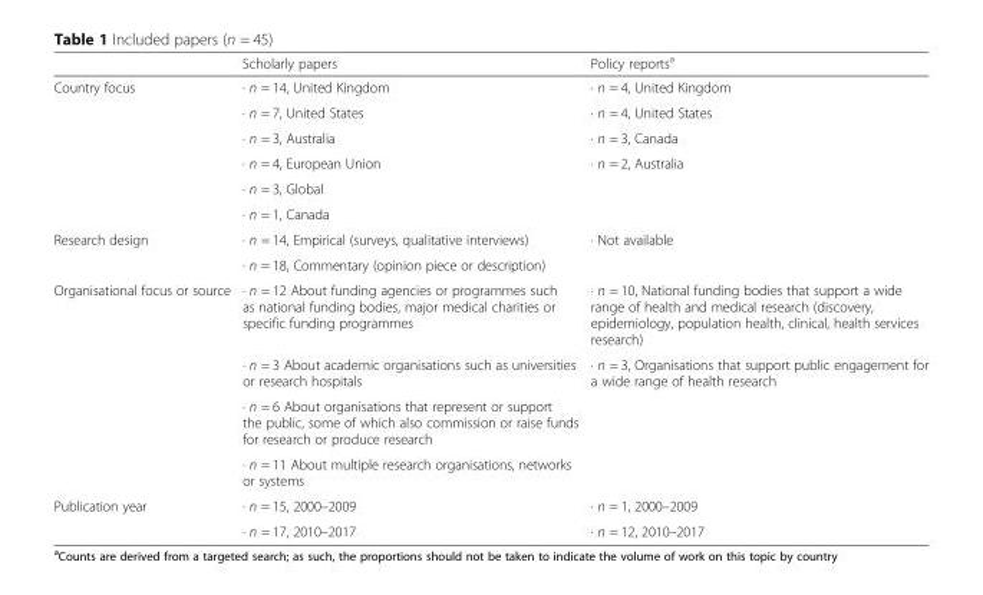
<table><thead><tr><td></td><td>Scholarly papers</td><td>Policy reports<sup>a</sup></td></tr></thead><tbody><tr><td rowspan="6">Country focus</td><td>∙ n = 14, United Kingdom</td><td>∙ n = 4, United Kingdom</td></tr><tr><td>∙ n = 7, United States</td><td>∙ n = 4, United States</td></tr><tr><td>∙ n = 3, Australia</td><td>∙ n = 3, Canada</td></tr><tr><td>∙ n = 4, European Union</td><td rowspan="3">∙ n = 2, Australia</td></tr><tr><td>∙ n = 3, Global</td></tr><tr><td>∙ n = 1, Canada</td></tr><tr><td rowspan="2">Research design</td><td>∙ n = 14, Empirical (surveys, qualitative interviews)</td><td rowspan="2">∙ Not available</td></tr><tr><td>∙ n = 18, Commentary (opinion piece or description)</td></tr><tr><td rowspan="4">Organisational focus or source</td><td>∙ n = 12 About funding agencies or programmes such as national funding bodies, major medical charities or specific funding programmes</td><td>∙ n = 10, National funding bodies that support a wide range of health and medical research (discovery, epidemiology, population health, clinical, health services research)</td></tr><tr><td>∙ n = 3 About academic organisations such as universities or research hospitals</td><td rowspan="3">∙ n = 3, Organisations that support public engagement for a wide range of health research</td></tr><tr><td>∙ n = 6 About organisations that represent or support the public, some of which also commission or raise funds for research or produce research</td></tr><tr><td>∙ n = 11 About multiple research organisations, networks or systems</td></tr><tr><td rowspan="2">Publication year</td><td>∙ n = 15, 2000–2009</td><td>∙ n = 1, 2000–2009</td></tr><tr><td>∙ n = 17, 2010–2017</td><td>∙ n = 12, 2010–2017</td></tr></tbody></table>